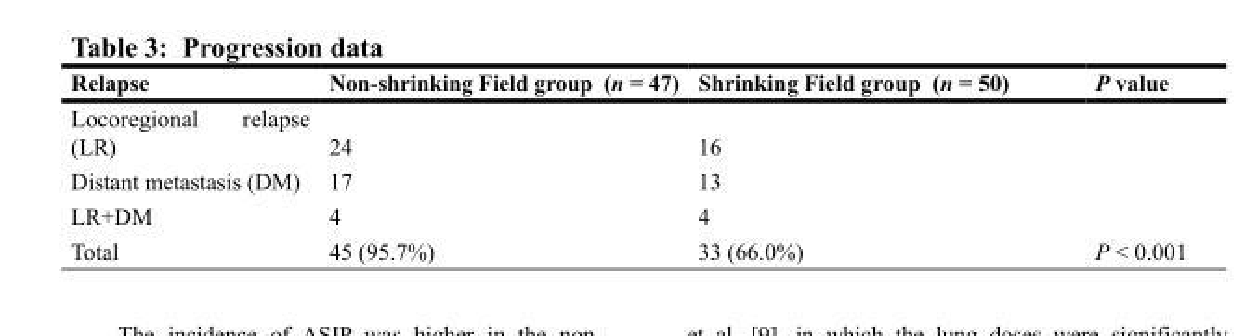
<table><thead><tr><td>Relapse</td><td>Non-shrinking Field group (n = 47)</td><td>Shrinking Field group (n = 50)</td><td>P value</td></tr></thead><tbody><tr><td>Locoregional relapse (LR)</td><td>24</td><td>16</td><td></td></tr><tr><td>Distant metastasis (DM)</td><td>17</td><td>13</td><td></td></tr><tr><td>LR+DM</td><td>4</td><td>4</td><td></td></tr><tr><td>Total</td><td>45 (95.7%)</td><td>33 (66.0%)</td><td>P &lt; 0.001</td></tr></tbody></table>